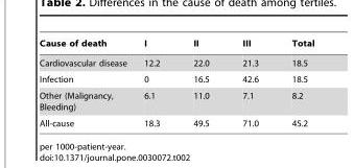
<table><thead><tr><td>Cause of death</td><td>I</td><td>II</td><td>III</td><td>Total</td></tr></thead><tbody><tr><td>Cardiovascular disease</td><td>12.2</td><td>22.0</td><td>21.3</td><td>18.5</td></tr><tr><td>Infection</td><td>0</td><td>16.5</td><td>42.6</td><td>18.5</td></tr><tr><td>Other (Malignancy, Bleeding)</td><td>6.1</td><td>11.0</td><td>7.1</td><td>8.2</td></tr><tr><td>All-cause</td><td>18.3</td><td>49.5</td><td>71.0</td><td>45.2</td></tr></tbody></table>